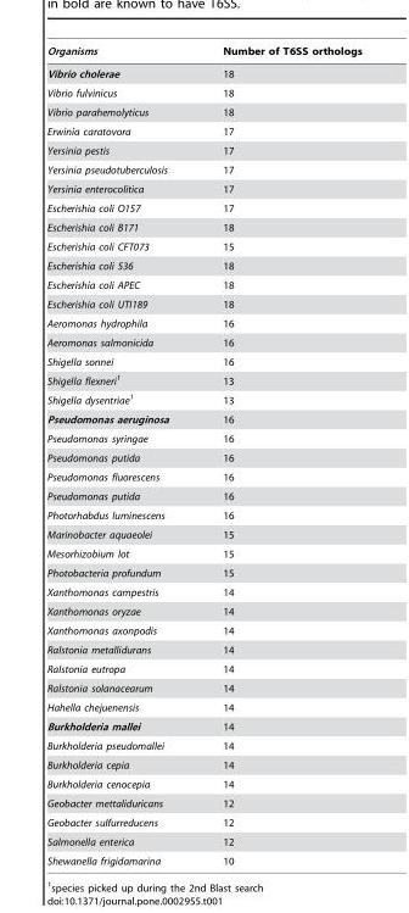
<table><thead><tr><td>Organisms</td><td>Number of T6SS orthologs</td></tr></thead><tbody><tr><td>Vibrio cholerae</td><td>18</td></tr><tr><td>Vibrio fulvinicus</td><td>18</td></tr><tr><td>Vibrio parahemolyticus</td><td>18</td></tr><tr><td>Erwinia caratovora</td><td>17</td></tr><tr><td>Yersinia pestis</td><td>17</td></tr><tr><td>Yersinia pseudotuberculosis</td><td>17</td></tr><tr><td>Yersinia enterocolitica</td><td>17</td></tr><tr><td>Escherishia coli O157</td><td>17</td></tr><tr><td>Escherishia coli B171</td><td>18</td></tr><tr><td>Escherishia coli CFT073</td><td>15</td></tr><tr><td>Escherishia coli 536</td><td>18</td></tr><tr><td>Escherishia coli APEC</td><td>18</td></tr><tr><td>Escherishia coli UTI189</td><td>18</td></tr><tr><td>Aeromonas hydrophila</td><td>16</td></tr><tr><td>Aeromonas salmonicida</td><td>16</td></tr><tr><td>Shigella sonnei</td><td>16</td></tr><tr><td>Shigella flexneri1</td><td>13</td></tr><tr><td>Shigella dysentriae1</td><td>13</td></tr><tr><td>Pseudomonas aeruginosa</td><td>16</td></tr><tr><td>Pseudomonas syringae</td><td>16</td></tr><tr><td>Pseudomonas putida</td><td>16</td></tr><tr><td>Pseudomonas fluorescens</td><td>16</td></tr><tr><td>Pseudomonas putida</td><td>16</td></tr><tr><td>Photorhabdus luminescens</td><td>16</td></tr><tr><td>Marinobacter aquaeolei</td><td>15</td></tr><tr><td>Mesorhizobium lot</td><td>15</td></tr><tr><td>Photobacteria profundum</td><td>15</td></tr><tr><td>Xanthomonas campestris</td><td>14</td></tr><tr><td>Xanthomonas oryzae</td><td>14</td></tr><tr><td>Xanthomonas axonpodis</td><td>14</td></tr><tr><td>Ralstonia metallidurans</td><td>14</td></tr><tr><td>Ralstonia eutropa</td><td>14</td></tr><tr><td>Ralstonia solanacearum</td><td>14</td></tr><tr><td>Hahella chejuenensis</td><td>14</td></tr><tr><td>Burkholderia mallei</td><td>14</td></tr><tr><td>Burkholderia pseudomallei</td><td>14</td></tr><tr><td>Burkholderia cepia</td><td>14</td></tr><tr><td>Burkholderia cenocepia</td><td>14</td></tr><tr><td>Geobacter mettaliduricans</td><td>12</td></tr><tr><td>Geobacter sulfurreducens</td><td>12</td></tr><tr><td>Salmonella enterica</td><td>12</td></tr><tr><td>Shewanella frigidamarina</td><td>10</td></tr></tbody></table>